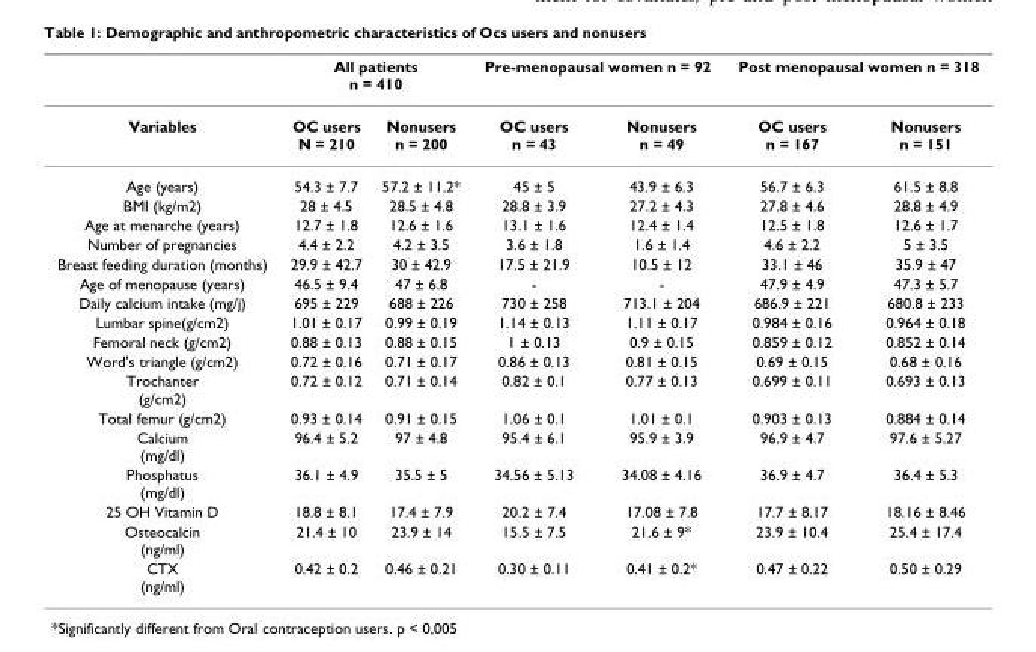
<table><thead><tr><td rowspan="2">Variables</td><td colspan="2">All patients n = 410</td><td colspan="2">Pre-menopausal women n = 92</td><td colspan="2">Post menopausal women n = 318</td></tr><tr><td>OC users N = 210</td><td>Nonusers n = 200</td><td>OC users n = 43</td><td>Nonusers n = 49</td><td>OC users n = 167</td><td>Nonusers n = 151</td></tr></thead><tbody><tr><td>Age (years)</td><td>54.3 ± 7.7</td><td>57.2 ± 11.2*</td><td>45 ± 5</td><td>43.9 ± 6.3</td><td>56.7 ± 6.3</td><td>61.5 ± 8.8</td></tr><tr><td>BMI (kg/m2)</td><td>28 ± 4.5</td><td>28.5 ± 4.8</td><td>28.8 ± 3.9</td><td>27.2 ± 4.3</td><td>27.8 ± 4.6</td><td>28.8 ± 4.9</td></tr><tr><td>Age at menarche (years)</td><td>12.7 ± 1.8</td><td>12.6 ± 1.6</td><td>13.1 ± 1.6</td><td>12.4 ± 1.4</td><td>12.5 ± 1.8</td><td>12.6 ± 1.7</td></tr><tr><td>Number of pregnancies</td><td>4.4 ± 2.2</td><td>4.2 ± 3.5</td><td>3.6 ± 1.8</td><td>1.6 ± 1.4</td><td>4.6 ± 2.2</td><td>5 ± 3.5</td></tr><tr><td>Breast feeding duration (months)</td><td>29.9 ± 42.7</td><td>30 ± 42.9</td><td>17.5 ± 21.9</td><td>10.5 ± 12</td><td>33.1 ± 46</td><td>35.9 ± 47</td></tr><tr><td>Age of menopause (years)</td><td>46.5 ± 9.4</td><td>47 ± 6.8</td><td>-</td><td>-</td><td>47.9 ± 4.9</td><td>47.3 ± 5.7</td></tr><tr><td>Daily calcium intake (mg/j)</td><td>695 ± 229</td><td>688 ± 226</td><td>730 ± 258</td><td>713.1 ± 204</td><td>686.9 ± 221</td><td>680.8 ± 233</td></tr><tr><td>Lumbar spine(g/cm2)</td><td>1.01 ± 0.17</td><td>0.99 ± 0.19</td><td>1.14 ± 0.13</td><td>1.11 ± 0.17</td><td>0.984 ± 0.16</td><td>0.964 ± 0.18</td></tr><tr><td>Femoral neck (g/cm2)</td><td>0.88 ± 0.13</td><td>0.88 ± 0.15</td><td>1 ± 0.13</td><td>0.9 ± 0.15</td><td>0.859 ± 0.12</td><td>0.852 ± 0.14</td></tr><tr><td>Word&#x27;s triangle (g/cm2)</td><td>0.72 ± 0.16</td><td>0.71 ± 0.17</td><td>0.86 ± 0.13</td><td>0.81 ± 0.15</td><td>0.69 ± 0.15</td><td>0.68 ± 0.16</td></tr><tr><td>Trochanter (g/cm2)</td><td>0.72 ± 0.12</td><td>0.71 ± 0.14</td><td>0.82 ± 0.1</td><td>0.77 ± 0.13</td><td>0.699 ± 0.11</td><td>0.693 ± 0.13</td></tr><tr><td>Total femur (g/cm2)</td><td>0.93 ± 0.14</td><td>0.91 ± 0.15</td><td>1.06 ± 0.1</td><td>1.01 ± 0.1</td><td>0.903 ± 0.13</td><td>0.884 ± 0.14</td></tr><tr><td>Calcium (mg/dl)</td><td>96.4 ± 5.2</td><td>97 ± 4.8</td><td>95.4 ± 6.1</td><td>95.9 ± 3.9</td><td>96.9 ± 4.7</td><td>97.6 ± 5.27</td></tr><tr><td>Phosphatus (mg/dl)</td><td>36.1 ± 4.9</td><td>35.5 ± 5</td><td>34.56 ± 5.13</td><td>34.08 ± 4.16</td><td>36.9 ± 4.7</td><td>36.4 ± 5.3</td></tr><tr><td>25 OH Vitamin D</td><td>18.8 ± 8.1</td><td>17.4 ± 7.9</td><td>20.2 ± 7.4</td><td>17.08 ± 7.8</td><td>17.7 ± 8.17</td><td>18.16 ± 8.46</td></tr><tr><td>Osteocalcin (ng/ml)</td><td>21.4 ± 10</td><td>23.9 ± 14</td><td>15.5 ± 7.5</td><td>21.6 ± 9*</td><td>23.9 ± 10.4</td><td>25.4 ± 17.4</td></tr><tr><td>CTX (ng/ml)</td><td>0.42 ± 0.2</td><td>0.46 ± 0.21</td><td>0.30 ± 0.11</td><td>0.41 ± 0.2*</td><td>0.47 ± 0.22</td><td>0.50 ± 0.29</td></tr></tbody></table>